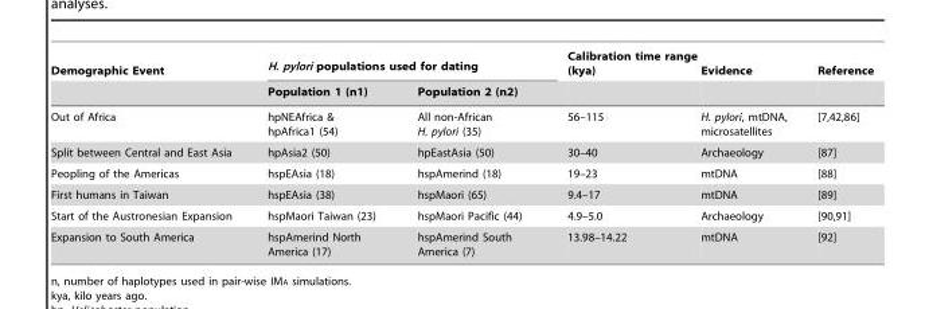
<table><thead><tr><td rowspan="2">Demographic Event</td><td colspan="2">H. pylori populations used for dating</td><td rowspan="2">Calibration time range (kya)</td><td rowspan="2">Evidence</td><td rowspan="2">Reference</td></tr><tr><td>Population 1 (n1)</td><td>Population 2 (n2)</td></tr></thead><tbody><tr><td>Out of Africa</td><td>hpNEAfrica &amp; hpAfrica1 (54)</td><td>All non-African H. pylori (35)</td><td>56–115</td><td>H. pylori, mtDNA, microsatellites</td><td>[7,42,86]</td></tr><tr><td>Split between Central and East Asia</td><td>hpAsia2 (50)</td><td>hpEastAsia (50)</td><td>30–40</td><td>Archaeology</td><td>[87]</td></tr><tr><td>Peopling of the Americas</td><td>hspEAsia (18)</td><td>hspAmerind (18)</td><td>19–23</td><td>mtDNA</td><td>[88]</td></tr><tr><td>First humans in Taiwan</td><td>hspEAsia (38)</td><td>hspMaori (65)</td><td>9.4–17</td><td>mtDNA</td><td>[89]</td></tr><tr><td>Start of the Austronesian Expansion</td><td>hspMaori Taiwan (23)</td><td>hspMaori Pacific (44)</td><td>4.9–5.0</td><td>Archaeology</td><td>[90,91]</td></tr><tr><td>Expansion to South America</td><td>hspAmerind North America (17)</td><td>hspAmerind South America (7)</td><td>13.98–14.22</td><td>mtDNA</td><td>[92]</td></tr></tbody></table>